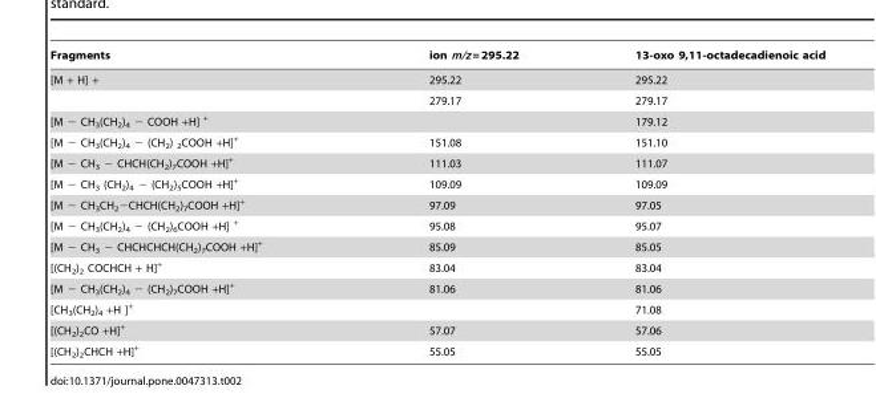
<table><thead><tr><td>Fragments</td><td>ion m/z = 295.22</td><td>13-oxo 9,11-octadecadienoic acid</td></tr></thead><tbody><tr><td rowspan="2">[M + H] +</td><td>295.22</td><td>295.22</td></tr><tr><td>279.17</td><td>279.17</td></tr><tr><td>[M − CH<sub>3</sub>(CH<sub>2</sub>)<sub>4</sub> − COOH +H] <sup>+</sup></td><td></td><td>179.12</td></tr><tr><td>[M − CH<sub>3</sub>(CH<sub>2</sub>)<sub>4</sub> − (CH<sub>2</sub>) <sub>2</sub>COOH +H]<sup>+</sup></td><td>151.08</td><td>151.10</td></tr><tr><td>[M − CH<sub>3</sub> − CHCH(CH<sub>2</sub>)<sub>7</sub>COOH +H]<sup>+</sup></td><td>111.03</td><td>111.07</td></tr><tr><td>[M − CH<sub>3</sub> (CH<sub>2</sub>)<sub>4</sub> − (CH<sub>2</sub>)<sub>5</sub>COOH +H]<sup>+</sup></td><td>109.09</td><td>109.09</td></tr><tr><td>[M − CH<sub>3</sub>CH<sub>2</sub>−CHCH(CH<sub>2</sub>)<sub>7</sub>COOH +H]<sup>+</sup></td><td>97.09</td><td>97.05</td></tr><tr><td>[M − CH<sub>3</sub>(CH<sub>2</sub>)<sub>4</sub> − (CH<sub>2</sub>)<sub>6</sub>COOH +H] <sup>+</sup></td><td>95.08</td><td>95.07</td></tr><tr><td>[M − CH<sub>3</sub> − CHCHCHCH(CH<sub>2</sub>)<sub>7</sub>COOH +H]<sup>+</sup></td><td>85.09</td><td>85.05</td></tr><tr><td>[(CH<sub>2</sub>)<sub>2</sub> COCHCH + H]<sup>+</sup></td><td>83.04</td><td>83.04</td></tr><tr><td>[M − CH<sub>3</sub>(CH<sub>2</sub>)<sub>4</sub> − (CH<sub>2</sub>)<sub>7</sub>COOH +H]<sup>+</sup></td><td>81.06</td><td>81.06</td></tr><tr><td>[CH<sub>3</sub>(CH<sub>2</sub>)<sub>4</sub> +H ]<sup>+</sup></td><td></td><td>71.08</td></tr><tr><td>[(CH<sub>2</sub>)<sub>2</sub>CO +H]<sup>+</sup></td><td>57.07</td><td>57.06</td></tr><tr><td>[(CH<sub>2</sub>)<sub>2</sub>CHCH +H]<sup>+</sup></td><td>55.05</td><td>55.05</td></tr></tbody></table>